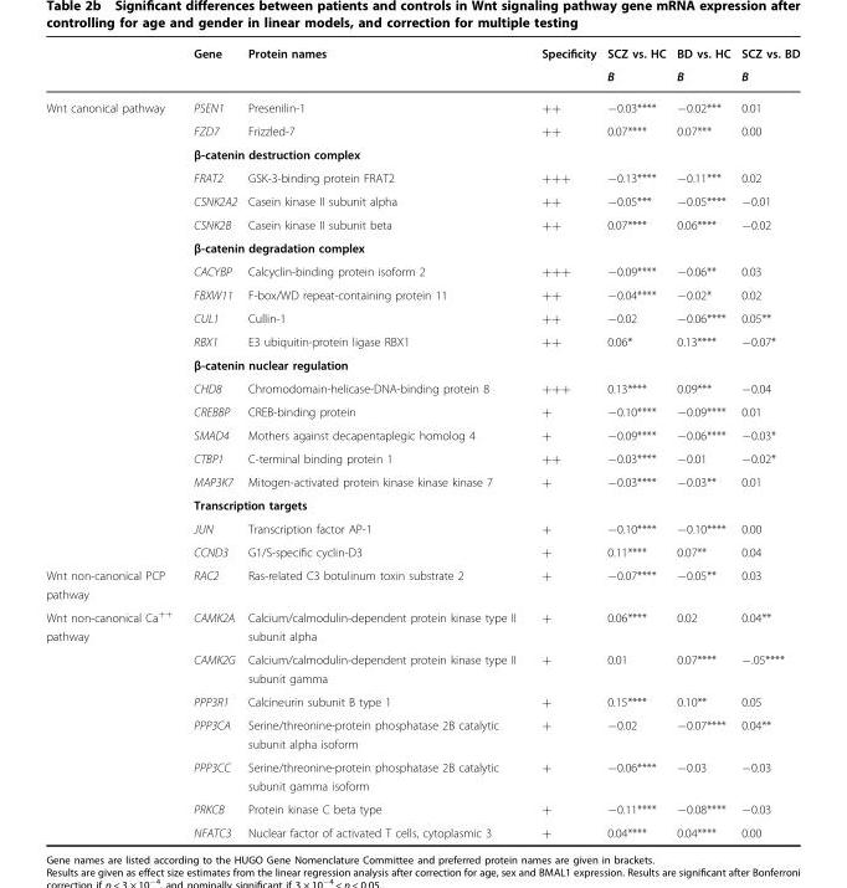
<table><thead><tr><td rowspan="2"></td><td rowspan="2">Gene</td><td rowspan="2">Protein names</td><td rowspan="2">Specificity</td><td rowspan="2">SCZ vs. HC B</td><td rowspan="2">BD vs. HC B</td><td rowspan="2">SCZ vs. BD B</td></tr><tr></tr></thead><tbody><tr><td rowspan="20">Wnt canonical pathway</td><td>PSEN1</td><td>Presenilin-1</td><td>++</td><td>−0.03****</td><td>−0.02***</td><td>0.01</td></tr><tr><td>FZD7</td><td>Frizzled-7</td><td>++</td><td>0.07****</td><td>0.07***</td><td>0.00</td></tr><tr><td colspan="6">β-catenin destruction complex</td></tr><tr><td>FRAT2</td><td>GSK-3-binding protein FRAT2</td><td>+++</td><td>−0.13****</td><td>−0.11***</td><td>0.02</td></tr><tr><td>CSNK2A2</td><td>Casein kinase II subunit alpha</td><td>++</td><td>−0.05***</td><td>−0.05****</td><td>−0.01</td></tr><tr><td>CSNK2B</td><td>Casein kinase II subunit beta</td><td>++</td><td>0.07****</td><td>0.06****</td><td>−0.02</td></tr><tr><td colspan="6">β-catenin degradation complex</td></tr><tr><td>CACYBP</td><td>Calcyclin-binding protein isoform 2</td><td>+++</td><td>−0.09****</td><td>−0.06**</td><td>0.03</td></tr><tr><td>FBXW11</td><td>F-box/WD repeat-containing protein 11</td><td>++</td><td>−0.04****</td><td>−0.02*</td><td>0.02</td></tr><tr><td>CUL1</td><td>Cullin-1</td><td>++</td><td>−0.02</td><td>−0.06****</td><td>0.05**</td></tr><tr><td>RBX1</td><td>E3 ubiquitin-protein ligase RBX1</td><td>++</td><td>0.06*</td><td>0.13****</td><td>−0.07*</td></tr><tr><td colspan="6">β-catenin nuclear regulation</td></tr><tr><td>CHD8</td><td>Chromodomain-helicase-DNA-binding protein 8</td><td>+++</td><td>0.13****</td><td>0.09***</td><td>−0.04</td></tr><tr><td>CREBBP</td><td>CREB-binding protein</td><td>+</td><td>−0.10****</td><td>−0.09****</td><td>0.01</td></tr><tr><td>SMAD4</td><td>Mothers against decapentaplegic homolog 4</td><td>+</td><td>−0.09****</td><td>−0.06****</td><td>−0.03*</td></tr><tr><td>CTBP1</td><td>C-terminal binding protein 1</td><td>++</td><td>−0.03****</td><td>−0.01</td><td>−0.02*</td></tr><tr><td>MAP3K7</td><td>Mitogen-activated protein kinase kinase kinase 7</td><td>+</td><td>−0.03****</td><td>−0.03**</td><td>0.01</td></tr><tr><td colspan="6">Transcription targets</td></tr><tr><td>JUN</td><td>Transcription factor AP-1</td><td>+</td><td>−0.10****</td><td>−0.10****</td><td>0.00</td></tr><tr><td>CCND3</td><td>G1/S-specific cyclin-D3</td><td>+</td><td>0.11****</td><td>0.07**</td><td>0.04</td></tr><tr><td>Wnt non-canonical PCP pathway</td><td>RAC2</td><td>Ras-related C3 botulinum toxin substrate 2</td><td>+</td><td>−0.07****</td><td>−0.05**</td><td>0.03</td></tr><tr><td rowspan="7">Wnt non-canonical Ca<sup>++</sup> pathway</td><td>CAMK2A</td><td>Calcium/calmodulin-dependent protein kinase type II subunit alpha</td><td>+</td><td>0.06****</td><td>0.02</td><td>0.04**</td></tr><tr><td>CAMK2G</td><td>Calcium/calmodulin-dependent protein kinase type II subunit gamma</td><td>+</td><td>0.01</td><td>0.07****</td><td>−.05****</td></tr><tr><td>PPP3R1</td><td>Calcineurin subunit B type 1</td><td>+</td><td>0.15****</td><td>0.10**</td><td>0.05</td></tr><tr><td>PPP3CA</td><td>Serine/threonine-protein phosphatase 2B catalytic subunit alpha isoform</td><td>+</td><td>−0.02</td><td>−0.07****</td><td>0.04**</td></tr><tr><td>PPP3CC</td><td>Serine/threonine-protein phosphatase 2B catalytic subunit gamma isoform</td><td>+</td><td>−0.06****</td><td>−0.03</td><td>−0.03</td></tr><tr><td>PRKCB</td><td>Protein kinase C beta type</td><td>+</td><td>−0.11****</td><td>−0.08****</td><td>−0.03</td></tr><tr><td>NFATC3</td><td>Nuclear factor of activated T cells, cytoplasmic 3</td><td>+</td><td>0.04****</td><td>0.04****</td><td>0.00</td></tr></tbody></table>